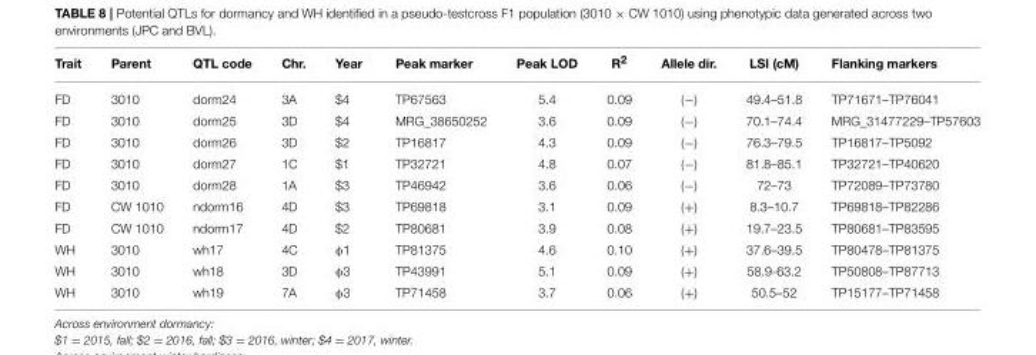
<table><thead><tr><td>Trait</td><td>Parent</td><td>QTL code</td><td>Chr.</td><td>Year</td><td>Peak marker</td><td>Peak LOD</td><td>R<sup>2</sup></td><td>Allele dir.</td><td>LSI (cM)</td><td>Flanking markers</td></tr></thead><tbody><tr><td>FD</td><td>3010</td><td>dorm24</td><td>3A</td><td>$4</td><td>TP67563</td><td>5.4</td><td>0.09</td><td>(−)</td><td>49.4–51.8</td><td>TP71671–TP76041</td></tr><tr><td>FD</td><td>3010</td><td>dorm25</td><td>3D</td><td>$4</td><td>MRG_38650252</td><td>3.6</td><td>0.09</td><td>(−)</td><td>70.1–74.4</td><td>MRG_31477229–TP57603</td></tr><tr><td>FD</td><td>3010</td><td>dorm26</td><td>3D</td><td>$2</td><td>TP16817</td><td>4.3</td><td>0.09</td><td>(−)</td><td>76.3–79.5</td><td>TP16817–TP5092</td></tr><tr><td>FD</td><td>3010</td><td>dorm27</td><td>1C</td><td>$1</td><td>TP32721</td><td>4.8</td><td>0.07</td><td>(−)</td><td>81.8–85.1</td><td>TP32721–TP40620</td></tr><tr><td>FD</td><td>3010</td><td>dorm28</td><td>1A</td><td>$3</td><td>TP46942</td><td>3.6</td><td>0.06</td><td>(−)</td><td>72–73</td><td>TP72089–TP73780</td></tr><tr><td>FD</td><td>CW 1010</td><td>ndorm16</td><td>4D</td><td>$3</td><td>TP69818</td><td>3.1</td><td>0.09</td><td>(+)</td><td>8.3–10.7</td><td>TP69818–TP82286</td></tr><tr><td>FD</td><td>CW 1010</td><td>ndorm17</td><td>4D</td><td>$2</td><td>TP80681</td><td>3.9</td><td>0.08</td><td>(+)</td><td>19.7–23.5</td><td>TP80681–TP83595</td></tr><tr><td>WH</td><td>3010</td><td>wh17</td><td>4C</td><td>φ1</td><td>TP81375</td><td>4.6</td><td>0.10</td><td>(+)</td><td>37.6–39.5</td><td>TP80478–TP81375</td></tr><tr><td>WH</td><td>3010</td><td>wh18</td><td>3D</td><td>φ3</td><td>TP43991</td><td>5.1</td><td>0.09</td><td>(+)</td><td>58.9-63.2</td><td>TP50808–TP87713</td></tr><tr><td>WH</td><td>3010</td><td>wh19</td><td>7A</td><td>φ3</td><td>TP71458</td><td>3.7</td><td>0.06</td><td>(+)</td><td>50.5–52</td><td>TP15177–TP71458</td></tr></tbody></table>